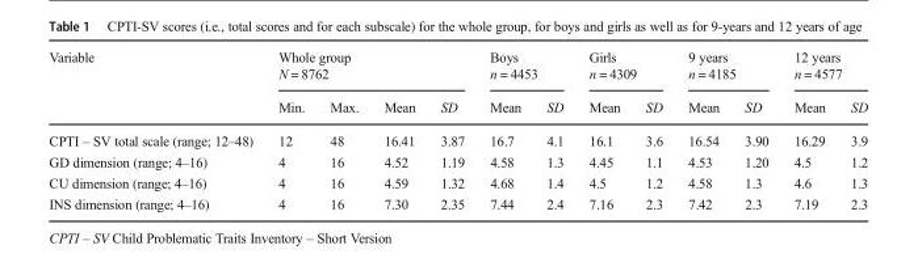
<table><thead><tr><td rowspan="2">Variable</td><td colspan="4">Whole group N = 8762</td><td colspan="2">Boys n = 4453</td><td colspan="2">Girls n = 4309</td><td colspan="2">9 years n = 4185</td><td colspan="2">12 years n = 4577</td></tr><tr><td>Min.</td><td>Max.</td><td>Mean</td><td>SD</td><td>Mean</td><td>SD</td><td>Mean</td><td>SD</td><td>Mean</td><td>SD</td><td>Mean</td><td>SD</td></tr></thead><tbody><tr><td>CPTI – SV total scale (range; 12–48)</td><td>12</td><td>48</td><td>16.41</td><td>3.87</td><td>16.7</td><td>4.1</td><td>16.1</td><td>3.6</td><td>16.54</td><td>3.90</td><td>16.29</td><td>3.9</td></tr><tr><td>GD dimension (range; 4–16)</td><td>4</td><td>16</td><td>4.52</td><td>1.19</td><td>4.58</td><td>1.3</td><td>4.45</td><td>1.1</td><td>4.53</td><td>1.20</td><td>4.5</td><td>1.2</td></tr><tr><td>CU dimension (range; 4–16)</td><td>4</td><td>16</td><td>4.59</td><td>1.32</td><td>4.68</td><td>1.4</td><td>4.5</td><td>1.2</td><td>4.58</td><td>1.3</td><td>4.6</td><td>1.3</td></tr><tr><td>INS dimension (range; 4–16)</td><td>4</td><td>16</td><td>7.30</td><td>2.35</td><td>7.44</td><td>2.4</td><td>7.16</td><td>2.3</td><td>7.42</td><td>2.3</td><td>7.19</td><td>2.3</td></tr></tbody></table>